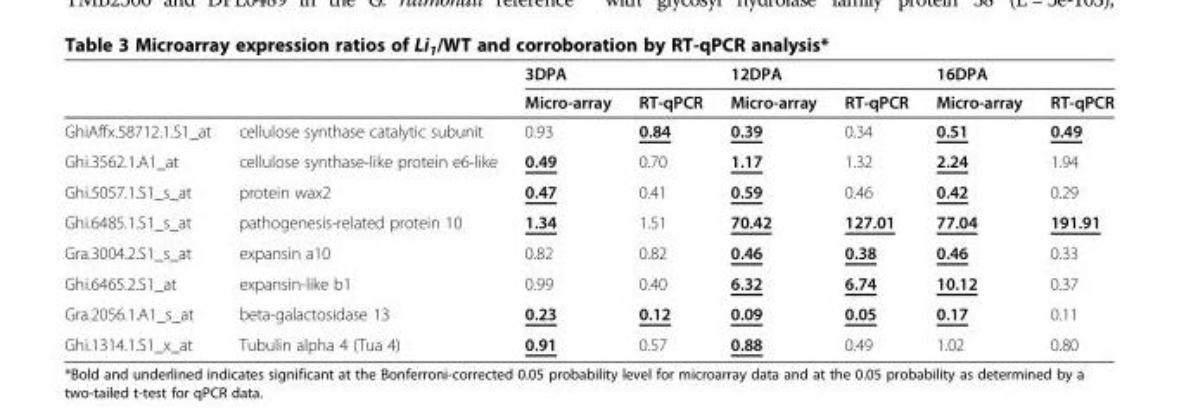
<table><thead><tr><td rowspan="2"></td><td rowspan="2"></td><td colspan="2">3DPA</td><td colspan="2">12DPA</td><td colspan="2">16DPA</td></tr><tr><td>Micro-array</td><td>RT-qPCR</td><td>Micro-array</td><td>RT-qPCR</td><td>Micro-array</td><td>RT-qPCR</td></tr></thead><tbody><tr><td>GhiAffx.58712.1.S1_at</td><td>cellulose synthase catalytic subunit</td><td>0.93</td><td>0.84</td><td>0.39</td><td>0.34</td><td>0.51</td><td>0.49</td></tr><tr><td>Ghi.3562.1.A1_at</td><td>cellulose synthase-like protein e6-like</td><td>0.49</td><td>0.70</td><td>1.17</td><td>1.32</td><td>2.24</td><td>1.94</td></tr><tr><td>Ghi.5057.1.S1_s_at</td><td>protein wax2</td><td>0.47</td><td>0.41</td><td>0.59</td><td>0.46</td><td>0.42</td><td>0.29</td></tr><tr><td>Ghi.6485.1.S1_s_at</td><td>pathogenesis-related protein 10</td><td>1.34</td><td>1.51</td><td>70.42</td><td>127.01</td><td>77.04</td><td>191.91</td></tr><tr><td>Gra.3004.2.S1_s_at</td><td>expansin a10</td><td>0.82</td><td>0.82</td><td>0.46</td><td>0.38</td><td>0.46</td><td>0.33</td></tr><tr><td>Ghi.6465.2.S1_at</td><td>expansin-like b1</td><td>0.99</td><td>0.40</td><td>6.32</td><td>6.74</td><td>10.12</td><td>0.37</td></tr><tr><td>Gra.2056.1.A1_s_at</td><td>beta-galactosidase 13</td><td>0.23</td><td>0.12</td><td>0.09</td><td>0.05</td><td>0.17</td><td>0.11</td></tr><tr><td>Ghi.1314.1.S1_x_at</td><td>Tubulin alpha 4 (Tua 4)</td><td>0.91</td><td>0.57</td><td>0.88</td><td>0.49</td><td>1.02</td><td>0.80</td></tr></tbody></table>